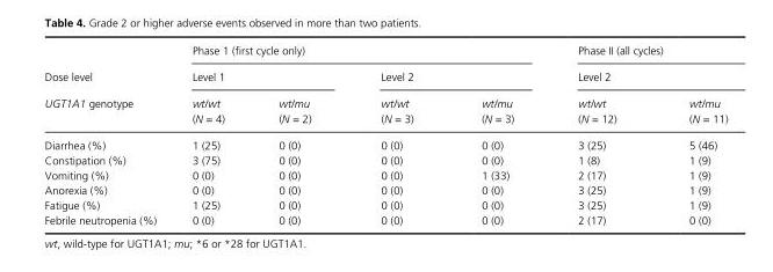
<table><thead><tr><td rowspan="3">Dose level UGT1A1 genotype</td><td colspan="4">Phase 1 (first cycle only)</td><td rowspan="2" colspan="2">Phase II (all cycles) Level 2</td></tr><tr><td colspan="2">Level 1</td><td colspan="2">Level 2</td></tr><tr><td>wt/wt (N = 4)</td><td>wt/mu (N = 2)</td><td>wt/wt (N = 3)</td><td>wt/mu (N = 3)</td><td>wt/wt (N = 12)</td><td>wt/mu (N = 11)</td></tr></thead><tbody><tr><td>Diarrhea (%)</td><td>1 (25)</td><td>0 (0)</td><td>0 (0)</td><td>0 (0)</td><td>3 (25)</td><td>5 (46)</td></tr><tr><td>Constipation (%)</td><td>3 (75)</td><td>0 (0)</td><td>0 (0)</td><td>0 (0)</td><td>1 (8)</td><td>1 (9)</td></tr><tr><td>Vomiting (%)</td><td>0 (0)</td><td>0 (0)</td><td>0 (0)</td><td>1 (33)</td><td>2 (17)</td><td>1 (9)</td></tr><tr><td>Anorexia (%)</td><td>0 (0)</td><td>0 (0)</td><td>0 (0)</td><td>0 (0)</td><td>3 (25)</td><td>1 (9)</td></tr><tr><td>Fatigue (%)</td><td>1 (25)</td><td>0 (0)</td><td>0 (0)</td><td>0 (0)</td><td>3 (25)</td><td>1 (9)</td></tr><tr><td>Febrile neutropenia (%)</td><td>0 (0)</td><td>0 (0)</td><td>0 (0)</td><td>0 (0)</td><td>2 (17)</td><td>0 (0)</td></tr></tbody></table>